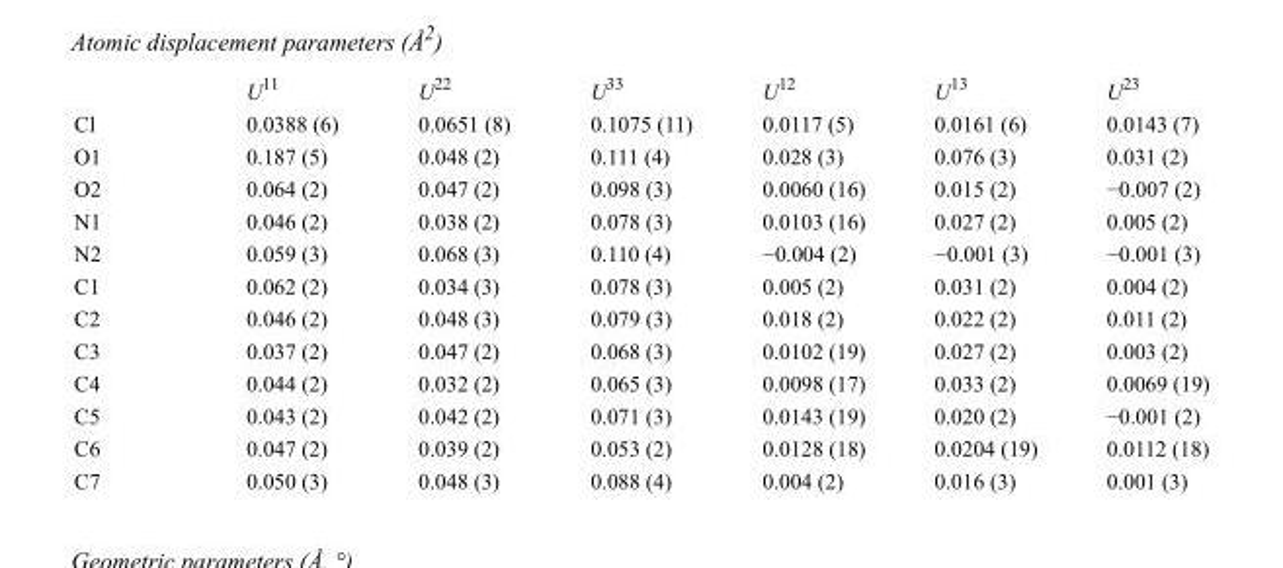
<table><thead><tr><td></td><td>U<sup>11</sup></td><td>U<sup>22</sup></td><td>U<sup>33</sup></td><td>U<sup>12</sup></td><td>U<sup>13</sup></td><td>U<sup>23</sup></td></tr></thead><tbody><tr><td>Cl</td><td>0.0388 (6)</td><td>0.0651 (8)</td><td>0.1075 (11)</td><td>0.0117 (5)</td><td>0.0161 (6)</td><td>0.0143 (7)</td></tr><tr><td>O1</td><td>0.187 (5)</td><td>0.048 (2)</td><td>0.111 (4)</td><td>0.028 (3)</td><td>0.076 (3)</td><td>0.031 (2)</td></tr><tr><td>O2</td><td>0.064 (2)</td><td>0.047 (2)</td><td>0.098 (3)</td><td>0.0060 (16)</td><td>0.015 (2)</td><td>−0.007 (2)</td></tr><tr><td>N1</td><td>0.046 (2)</td><td>0.038 (2)</td><td>0.078 (3)</td><td>0.0103 (16)</td><td>0.027 (2)</td><td>0.005 (2)</td></tr><tr><td>N2</td><td>0.059 (3)</td><td>0.068 (3)</td><td>0.110 (4)</td><td>−0.004 (2)</td><td>−0.001 (3)</td><td>−0.001 (3)</td></tr><tr><td>C1</td><td>0.062 (2)</td><td>0.034 (3)</td><td>0.078 (3)</td><td>0.005 (2)</td><td>0.031 (2)</td><td>0.004 (2)</td></tr><tr><td>C2</td><td>0.046 (2)</td><td>0.048 (3)</td><td>0.079 (3)</td><td>0.018 (2)</td><td>0.022 (2)</td><td>0.011 (2)</td></tr><tr><td>C3</td><td>0.037 (2)</td><td>0.047 (2)</td><td>0.068 (3)</td><td>0.0102 (19)</td><td>0.027 (2)</td><td>0.003 (2)</td></tr><tr><td>C4</td><td>0.044 (2)</td><td>0.032 (2)</td><td>0.065 (3)</td><td>0.0098 (17)</td><td>0.033 (2)</td><td>0.0069 (19)</td></tr><tr><td>C5</td><td>0.043 (2)</td><td>0.042 (2)</td><td>0.071 (3)</td><td>0.0143 (19)</td><td>0.020 (2)</td><td>−0.001 (2)</td></tr><tr><td>C6</td><td>0.047 (2)</td><td>0.039 (2)</td><td>0.053 (2)</td><td>0.0128 (18)</td><td>0.0204 (19)</td><td>0.0112 (18)</td></tr><tr><td>C7</td><td>0.050 (3)</td><td>0.048 (3)</td><td>0.088 (4)</td><td>0.004 (2)</td><td>0.016 (3)</td><td>0.001 (3)</td></tr></tbody></table>